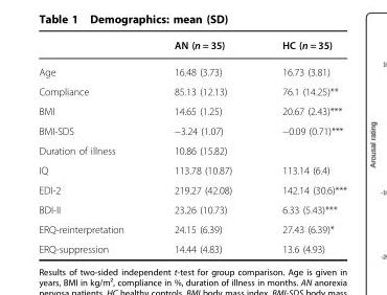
<table><thead><tr><td></td><td>AN (n = 35)</td><td>HC (n = 35)</td></tr></thead><tbody><tr><td>Age</td><td>16.48 (3.73)</td><td>16.73 (3.81)</td></tr><tr><td>Compliance</td><td>85.13 (12.13)</td><td>76.1 (14.25)**</td></tr><tr><td>BMI</td><td>14.65 (1.25)</td><td>20.67 (2.43)***</td></tr><tr><td>BMI-SDS</td><td>−3.24 (1.07)</td><td>−0.09 (0.71)***</td></tr><tr><td>Duration of illness</td><td>10.86 (15.82)</td><td></td></tr><tr><td>IQ</td><td>113.78 (10.87)</td><td>113.14 (6.4)</td></tr><tr><td>EDI-2</td><td>219.27 (42.08)</td><td>142.14 (30.6)***</td></tr><tr><td>BDI-II</td><td>23.26 (10.73)</td><td>6.33 (5.43)***</td></tr><tr><td>ERQ-reinterpretation</td><td>24.15 (6.39)</td><td>27.43 (6.39)*</td></tr><tr><td>ERQ-suppression</td><td>14.44 (4.83)</td><td>13.6 (4.93)</td></tr></tbody></table>